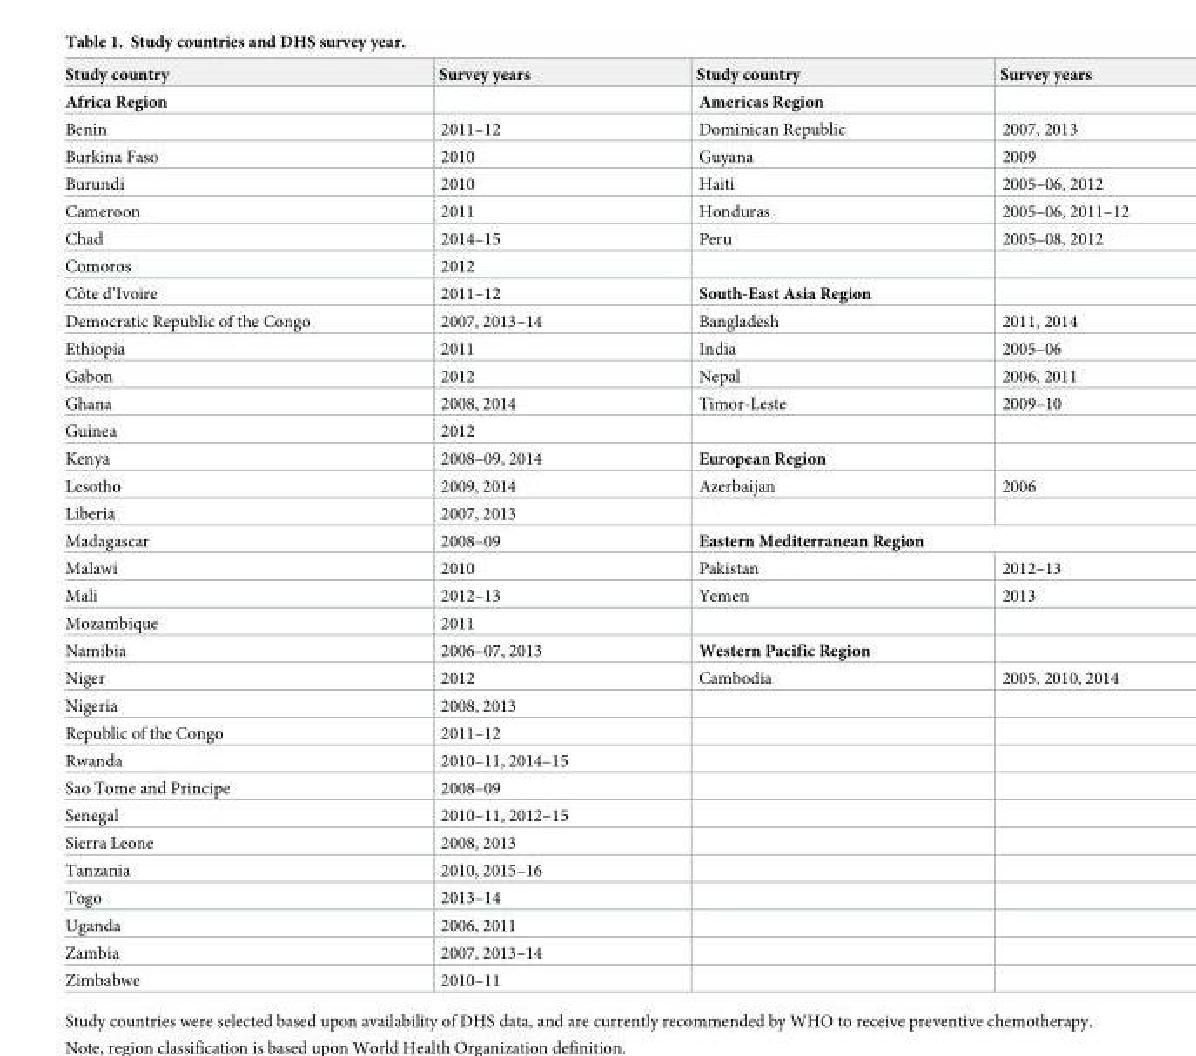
<table><thead><tr><td>Study country</td><td>Survey years</td><td>Study country</td><td>Survey years</td></tr></thead><tbody><tr><td>Africa Region</td><td></td><td>Americas Region</td><td></td></tr><tr><td>Benin</td><td>2011–12</td><td>Dominican Republic</td><td>2007, 2013</td></tr><tr><td>Burkina Faso</td><td>2010</td><td>Guyana</td><td>2009</td></tr><tr><td>Burundi</td><td>2010</td><td>Haiti</td><td>2005–06, 2012</td></tr><tr><td>Cameroon</td><td>2011</td><td>Honduras</td><td>2005–06, 2011–12</td></tr><tr><td>Chad</td><td>2014–15</td><td>Peru</td><td>2005–08, 2012</td></tr><tr><td>Comoros</td><td>2012</td><td></td><td></td></tr><tr><td>Coˆte d’Ivoire</td><td>2011–12</td><td>South-East Asia Region</td><td></td></tr><tr><td>Democratic Republic of the Congo</td><td>2007, 2013–14</td><td>Bangladesh</td><td>2011, 2014</td></tr><tr><td>Ethiopia</td><td>2011</td><td>India</td><td>2005–06</td></tr><tr><td>Gabon</td><td>2012</td><td>Nepal</td><td>2006, 2011</td></tr><tr><td>Ghana</td><td>2008, 2014</td><td>Timor-Leste</td><td>2009–10</td></tr><tr><td>Guinea</td><td>2012</td><td></td><td></td></tr><tr><td>Kenya</td><td>2008–09, 2014</td><td>European Region</td><td></td></tr><tr><td>Lesotho</td><td>2009, 2014</td><td>Azerbaijan</td><td>2006</td></tr><tr><td>Liberia</td><td>2007, 2013</td><td></td><td></td></tr><tr><td>Madagascar</td><td>2008–09</td><td colspan="2">Eastern Mediterranean Region</td></tr><tr><td>Malawi</td><td>2010</td><td>Pakistan</td><td>2012–13</td></tr><tr><td>Mali</td><td>2012–13</td><td>Yemen</td><td>2013</td></tr><tr><td>Mozambique</td><td>2011</td><td></td><td></td></tr><tr><td>Namibia</td><td>2006–07, 2013</td><td>Western Pacific Region</td><td></td></tr><tr><td>Niger</td><td>2012</td><td>Cambodia</td><td>2005, 2010, 2014</td></tr><tr><td>Nigeria</td><td>2008, 2013</td><td></td><td></td></tr><tr><td>Republic of the Congo</td><td>2011–12</td><td></td><td></td></tr><tr><td>Rwanda</td><td>2010–11, 2014–15</td><td></td><td></td></tr><tr><td>Sao Tome and Principe</td><td>2008–09</td><td></td><td></td></tr><tr><td>Senegal</td><td>2010–11, 2012–15</td><td></td><td></td></tr><tr><td>Sierra Leone</td><td>2008, 2013</td><td></td><td></td></tr><tr><td>Tanzania</td><td>2010, 2015–16</td><td></td><td></td></tr><tr><td>Togo</td><td>2013–14</td><td></td><td></td></tr><tr><td>Uganda</td><td>2006, 2011</td><td></td><td></td></tr><tr><td>Zambia</td><td>2007, 2013–14</td><td></td><td></td></tr><tr><td>Zimbabwe</td><td>2010–11</td><td></td><td></td></tr></tbody></table>